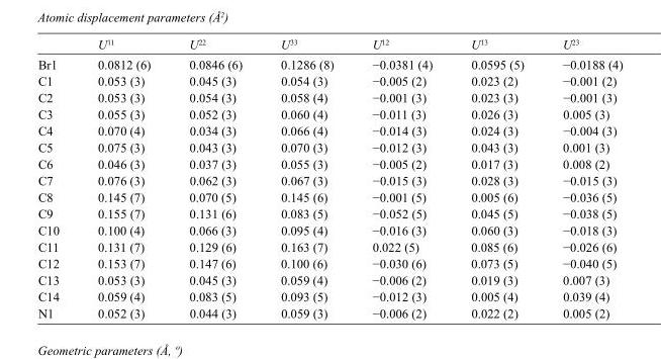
<table><thead><tr><td></td><td>U<sup>11</sup></td><td>U<sup>22</sup></td><td>U<sup>33</sup></td><td>U<sup>12</sup></td><td>U<sup>13</sup></td><td>U<sup>23</sup></td></tr></thead><tbody><tr><td>Br1</td><td>0.0812 (6)</td><td>0.0846 (6)</td><td>0.1286 (8)</td><td>−0.0381 (4)</td><td>0.0595 (5)</td><td>−0.0188 (4)</td></tr><tr><td>C1</td><td>0.053 (3)</td><td>0.045 (3)</td><td>0.054 (3)</td><td>−0.005 (2)</td><td>0.023 (2)</td><td>−0.001 (2)</td></tr><tr><td>C2</td><td>0.053 (3)</td><td>0.054 (3)</td><td>0.058 (4)</td><td>−0.001 (3)</td><td>0.023 (3)</td><td>−0.001 (3)</td></tr><tr><td>C3</td><td>0.055 (3)</td><td>0.052 (3)</td><td>0.060 (4)</td><td>−0.011 (3)</td><td>0.026 (3)</td><td>0.005 (3)</td></tr><tr><td>C4</td><td>0.070 (4)</td><td>0.034 (3)</td><td>0.066 (4)</td><td>−0.014 (3)</td><td>0.024 (3)</td><td>−0.004 (3)</td></tr><tr><td>C5</td><td>0.075 (3)</td><td>0.043 (3)</td><td>0.070 (3)</td><td>−0.012 (3)</td><td>0.043 (3)</td><td>0.001 (3)</td></tr><tr><td>C6</td><td>0.046 (3)</td><td>0.037 (3)</td><td>0.055 (3)</td><td>−0.005 (2)</td><td>0.017 (3)</td><td>0.008 (2)</td></tr><tr><td>C7</td><td>0.076 (3)</td><td>0.062 (3)</td><td>0.067 (3)</td><td>−0.015 (3)</td><td>0.028 (3)</td><td>−0.015 (3)</td></tr><tr><td>C8</td><td>0.145 (7)</td><td>0.070 (5)</td><td>0.145 (6)</td><td>−0.001 (5)</td><td>0.005 (6)</td><td>−0.036 (5)</td></tr><tr><td>C9</td><td>0.155 (7)</td><td>0.131 (6)</td><td>0.083 (5)</td><td>−0.052 (5)</td><td>0.045 (5)</td><td>−0.038 (5)</td></tr><tr><td>C10</td><td>0.100 (4)</td><td>0.066 (3)</td><td>0.095 (4)</td><td>−0.016 (3)</td><td>0.060 (3)</td><td>−0.018 (3)</td></tr><tr><td>C11</td><td>0.131 (7)</td><td>0.129 (6)</td><td>0.163 (7)</td><td>0.022 (5)</td><td>0.085 (6)</td><td>−0.026 (6)</td></tr><tr><td>C12</td><td>0.153 (7)</td><td>0.147 (6)</td><td>0.100 (6)</td><td>−0.030 (6)</td><td>0.073 (5)</td><td>−0.040 (5)</td></tr><tr><td>C13</td><td>0.053 (3)</td><td>0.045 (3)</td><td>0.059 (4)</td><td>−0.006 (2)</td><td>0.019 (3)</td><td>0.007 (3)</td></tr><tr><td>C14</td><td>0.059 (4)</td><td>0.083 (5)</td><td>0.093 (5)</td><td>−0.012 (3)</td><td>0.005 (4)</td><td>0.039 (4)</td></tr><tr><td>N1</td><td>0.052 (3)</td><td>0.044 (3)</td><td>0.059 (3)</td><td>−0.006 (2)</td><td>0.022 (2)</td><td>0.005 (2)</td></tr></tbody></table>